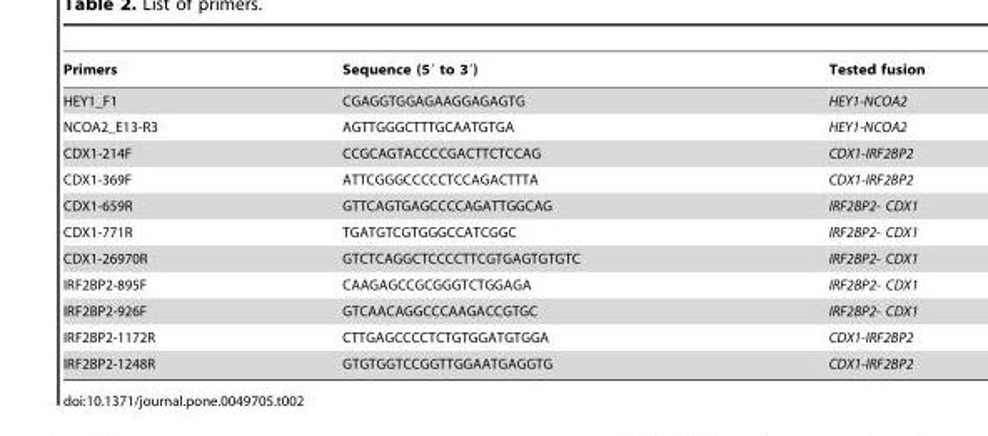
<table><thead><tr><td>Primers</td><td>Sequence (5′ to 3′)</td><td>Tested fusion</td></tr></thead><tbody><tr><td>HEY1_F1</td><td>CGAGGTGGAGAAGGAGAGTG</td><td>HEY1-NCOA2</td></tr><tr><td>NCOA2_E13-R3</td><td>AGTTGGGCTTTGCAATGTGA</td><td>HEY1-NCOA2</td></tr><tr><td>CDX1-214F</td><td>CCGCAGTACCCCGACTTCTCCAG</td><td>CDX1-IRF2BP2</td></tr><tr><td>CDX1-369F</td><td>ATTCGGGCCCCCTCCAGACTTTA</td><td>CDX1-IRF2BP2</td></tr><tr><td>CDX1-659R</td><td>GTTCAGTGAGCCCCAGATTGGCAG</td><td>IRF2BP2- CDX1</td></tr><tr><td>CDX1-771R</td><td>TGATGTCGTGGGCCATCGGC</td><td>IRF2BP2- CDX1</td></tr><tr><td>CDX1-26970R</td><td>GTCTCAGGCTCCCCTTCGTGAGTGTGTC</td><td>IRF2BP2- CDX1</td></tr><tr><td>IRF2BP2-895F</td><td>CAAGAGCCGCGGGTCTGGAGA</td><td>IRF2BP2- CDX1</td></tr><tr><td>IRF2BP2-926F</td><td>GTCAACAGGCCCAAGACCGTGC</td><td>IRF2BP2- CDX1</td></tr><tr><td>IRF2BP2-1172R</td><td>CTTGAGCCCCTCTGTGGATGTGGA</td><td>CDX1-IRF2BP2</td></tr><tr><td>IRF2BP2-1248R</td><td>GTGTGGTCCGGTTGGAATGAGGTG</td><td>CDX1-IRF2BP2</td></tr></tbody></table>